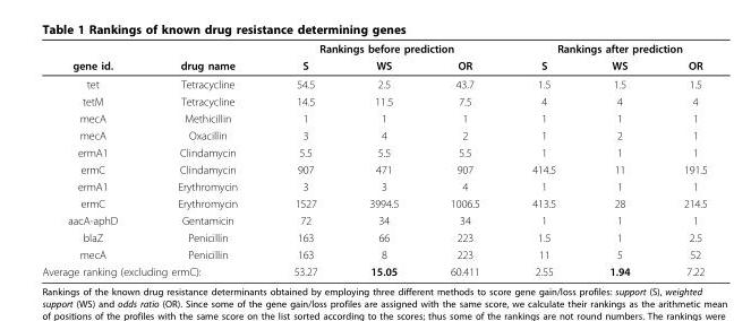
<table><thead><tr><td rowspan="2">gene id.</td><td rowspan="2">drug name</td><td colspan="3">Rankings before prediction</td><td colspan="3">Rankings after prediction</td></tr><tr><td>S</td><td>WS</td><td>OR</td><td>S</td><td>WS</td><td>OR</td></tr></thead><tbody><tr><td>tet</td><td>Tetracycline</td><td>54.5</td><td>2.5</td><td>43.7</td><td>1.5</td><td>1.5</td><td>1.5</td></tr><tr><td>tetM</td><td>Tetracycline</td><td>14.5</td><td>11.5</td><td>7.5</td><td>4</td><td>4</td><td>4</td></tr><tr><td>mecA</td><td>Methicillin</td><td>1</td><td>1</td><td>1</td><td>1</td><td>1</td><td>1</td></tr><tr><td>mecA</td><td>Oxacillin</td><td>3</td><td>4</td><td>2</td><td>1</td><td>2</td><td>1</td></tr><tr><td>ermA1</td><td>Clindamycin</td><td>5.5</td><td>5.5</td><td>5.5</td><td>1</td><td>1</td><td>1</td></tr><tr><td>ermC</td><td>Clindamycin</td><td>907</td><td>471</td><td>907</td><td>414.5</td><td>11</td><td>191.5</td></tr><tr><td>ermA1</td><td>Erythromycin</td><td>3</td><td>3</td><td>4</td><td>1</td><td>1</td><td>1</td></tr><tr><td>ermC</td><td>Erythromycin</td><td>1527</td><td>3994.5</td><td>1006.5</td><td>413.5</td><td>28</td><td>214.5</td></tr><tr><td>aacA-aphD</td><td>Gentamicin</td><td>72</td><td>34</td><td>34</td><td>1</td><td>1</td><td>1</td></tr><tr><td>blaZ</td><td>Penicillin</td><td>163</td><td>66</td><td>223</td><td>1.5</td><td>1</td><td>2.5</td></tr><tr><td>mecA</td><td>Penicillin</td><td>163</td><td>8</td><td>223</td><td>11</td><td>5</td><td>52</td></tr><tr><td colspan="2">Average ranking (excluding ermC):</td><td>53.27</td><td>15.05</td><td>60.411</td><td>2.55</td><td>1.94</td><td>7.22</td></tr></tbody></table>